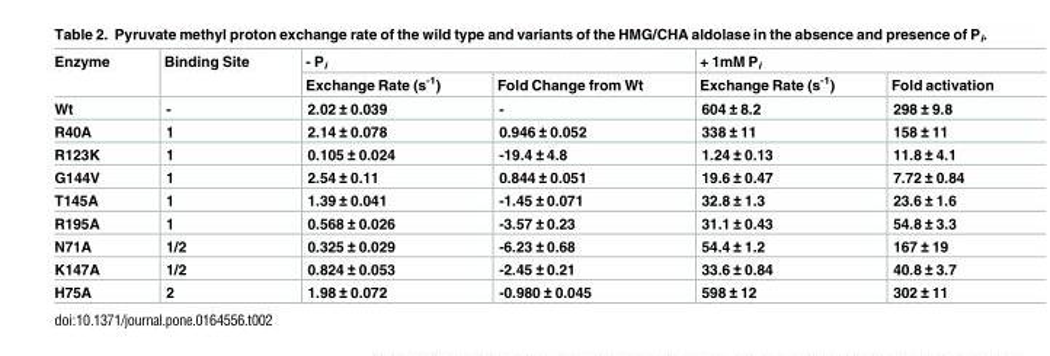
<table><thead><tr><td rowspan="2">Enzyme</td><td rowspan="2">Binding Site</td><td colspan="2">- P<sub>i</sub></td><td colspan="2">+ 1mM P<sub>i</sub></td></tr><tr><td>Exchange Rate (s<sup>-1</sup>)</td><td>Fold Change from Wt</td><td>Exchange Rate (s<sup>-1</sup>)</td><td>Fold activation</td></tr></thead><tbody><tr><td>Wt</td><td>-</td><td>2.02 ± 0.039</td><td>-</td><td>604 ± 8.2</td><td>298 ± 9.8</td></tr><tr><td>R40A</td><td>1</td><td>2.14 ± 0.078</td><td>0.946 ± 0.052</td><td>338 ± 11</td><td>158 ± 11</td></tr><tr><td>R123K</td><td>1</td><td>0.105 ± 0.024</td><td>-19.4 ± 4.8</td><td>1.24 ± 0.13</td><td>11.8 ± 4.1</td></tr><tr><td>G144V</td><td>1</td><td>2.54 ± 0.11</td><td>0.844 ± 0.051</td><td>19.6 ± 0.47</td><td>7.72 ± 0.84</td></tr><tr><td>T145A</td><td>1</td><td>1.39 ± 0.041</td><td>-1.45 ± 0.071</td><td>32.8 ± 1.3</td><td>23.6 ± 1.6</td></tr><tr><td>R195A</td><td>1</td><td>0.568 ± 0.026</td><td>-3.57 ± 0.23</td><td>31.1 ± 0.43</td><td>54.8 ± 3.3</td></tr><tr><td>N71A</td><td>1/2</td><td>0.325 ± 0.029</td><td>-6.23 ± 0.68</td><td>54.4 ± 1.2</td><td>167 ± 19</td></tr><tr><td>K147A</td><td>1/2</td><td>0.824 ± 0.053</td><td>-2.45 ± 0.21</td><td>33.6 ± 0.84</td><td>40.8 ± 3.7</td></tr><tr><td>H75A</td><td>2</td><td>1.98 ± 0.072</td><td>-0.980 ± 0.045</td><td>598 ± 12</td><td>302 ± 11</td></tr></tbody></table>